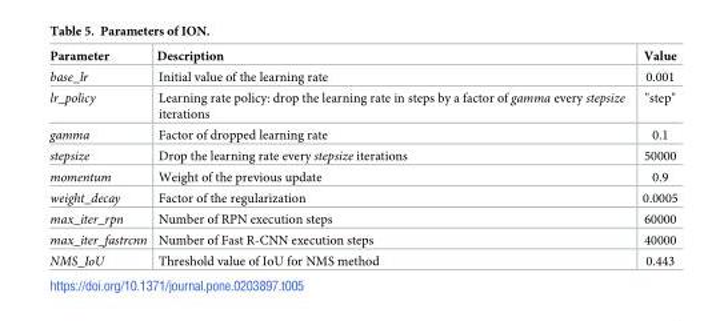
<table><thead><tr><td>Parameter</td><td>Description</td><td>Value</td></tr></thead><tbody><tr><td>base_lr</td><td>Initial value of the learning rate</td><td>0.001</td></tr><tr><td>lr_policy</td><td>Learning rate policy: drop the learning rate in steps by a factor of gamma every stepsize iterations</td><td>&quot;step&quot;</td></tr><tr><td>gamma</td><td>Factor of dropped learning rate</td><td>0.1</td></tr><tr><td>stepsize</td><td>Drop the learning rate every stepsize iterations</td><td>50000</td></tr><tr><td>momentum</td><td>Weight of the previous update</td><td>0.9</td></tr><tr><td>weight_decay</td><td>Factor of the regularization</td><td>0.0005</td></tr><tr><td>max_iter_rpn</td><td>Number of RPN execution steps</td><td>60000</td></tr><tr><td>max_iter_fastrcnn</td><td>Number of Fast R-CNN execution steps</td><td>40000</td></tr><tr><td>NMS_IoU</td><td>Threshold value of IoU for NMS method</td><td>0.443</td></tr></tbody></table>